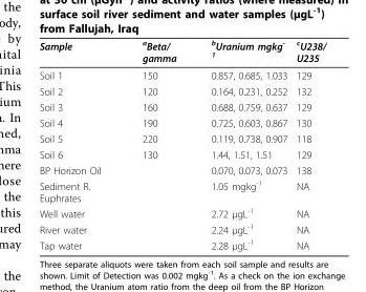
<table><thead><tr><td>Sample</td><td><sup>a</sup>Beta/ gamma</td><td><sup>b</sup>Uranium mgkg<sup>- 1</sup></td><td><sup>c</sup>U238/ U235</td></tr></thead><tbody><tr><td>Soil 1</td><td>150</td><td>0.857, 0.685, 1.033</td><td>129</td></tr><tr><td>Soil 2</td><td>120</td><td>0.164, 0.231, 0.252</td><td>132</td></tr><tr><td>Soil 3</td><td>160</td><td>0.688, 0.759, 0.637</td><td>129</td></tr><tr><td>Soil 4</td><td>190</td><td>0.725, 0.603, 0.867</td><td>130</td></tr><tr><td>Soil 5</td><td>220</td><td>0.119, 0.738, 0.907</td><td>118</td></tr><tr><td>Soil 6</td><td>130</td><td>1.44, 1.51, 1.51</td><td>129</td></tr><tr><td>BP Horizon Oil</td><td></td><td>0.070, 0.073, 0.073</td><td>138</td></tr><tr><td>Sediment R. Euphrates</td><td></td><td>1.05 mgkg<sup>-1</sup></td><td>NA</td></tr><tr><td>Well water</td><td></td><td>2.72 μgL<sup>-1</sup></td><td>NA</td></tr><tr><td>River water</td><td></td><td>2.24 μgL<sup>-1</sup></td><td>NA</td></tr><tr><td>Tap water</td><td></td><td>2.28 μgL<sup>-1</sup></td><td>NA</td></tr></tbody></table>